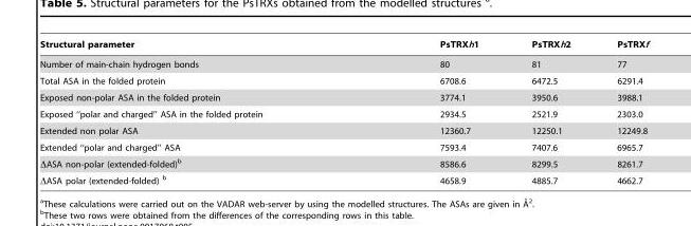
<table><thead><tr><td>Structural parameter</td><td>PsTRXh1</td><td>PsTRXh2</td><td>PsTRXf</td></tr></thead><tbody><tr><td>Number of main-chain hydrogen bonds</td><td>80</td><td>81</td><td>77</td></tr><tr><td>Total ASA in the folded protein</td><td>6708.6</td><td>6472.5</td><td>6291.4</td></tr><tr><td>Exposed non-polar ASA in the folded protein</td><td>3774.1</td><td>3950.6</td><td>3988.1</td></tr><tr><td>Exposed ‘‘polar and charged’’ ASA in the folded protein</td><td>2934.5</td><td>2521.9</td><td>2303.0</td></tr><tr><td>Extended non polar ASA</td><td>12360.7</td><td>12250.1</td><td>12249.8</td></tr><tr><td>Extended ‘‘polar and charged’’ ASA</td><td>7593.4</td><td>7407.6</td><td>6965.7</td></tr><tr><td>ΔASA non-polar (extended-folded)<sup>b</sup></td><td>8586.6</td><td>8299.5</td><td>8261.7</td></tr><tr><td>ΔASA polar (extended-folded) b</td><td>4658.9</td><td>4885.7</td><td>4662.7</td></tr></tbody></table>